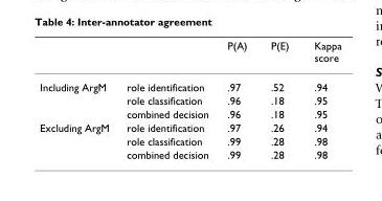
<table><thead><tr><td></td><td></td><td>P(A)</td><td>P(E)</td><td>Kappa score</td></tr></thead><tbody><tr><td rowspan="3">Including ArgM</td><td>role identification</td><td>.97</td><td>.52</td><td>.94</td></tr><tr><td>role classification</td><td>.96</td><td>.18</td><td>.95</td></tr><tr><td>combined decision</td><td>.96</td><td>.18</td><td>.95</td></tr><tr><td rowspan="3">Excluding ArgM</td><td>role identification</td><td>.97</td><td>.26</td><td>.94</td></tr><tr><td>role classification</td><td>.99</td><td>.28</td><td>.98</td></tr><tr><td>combined decision</td><td>.99</td><td>.28</td><td>.98</td></tr></tbody></table>